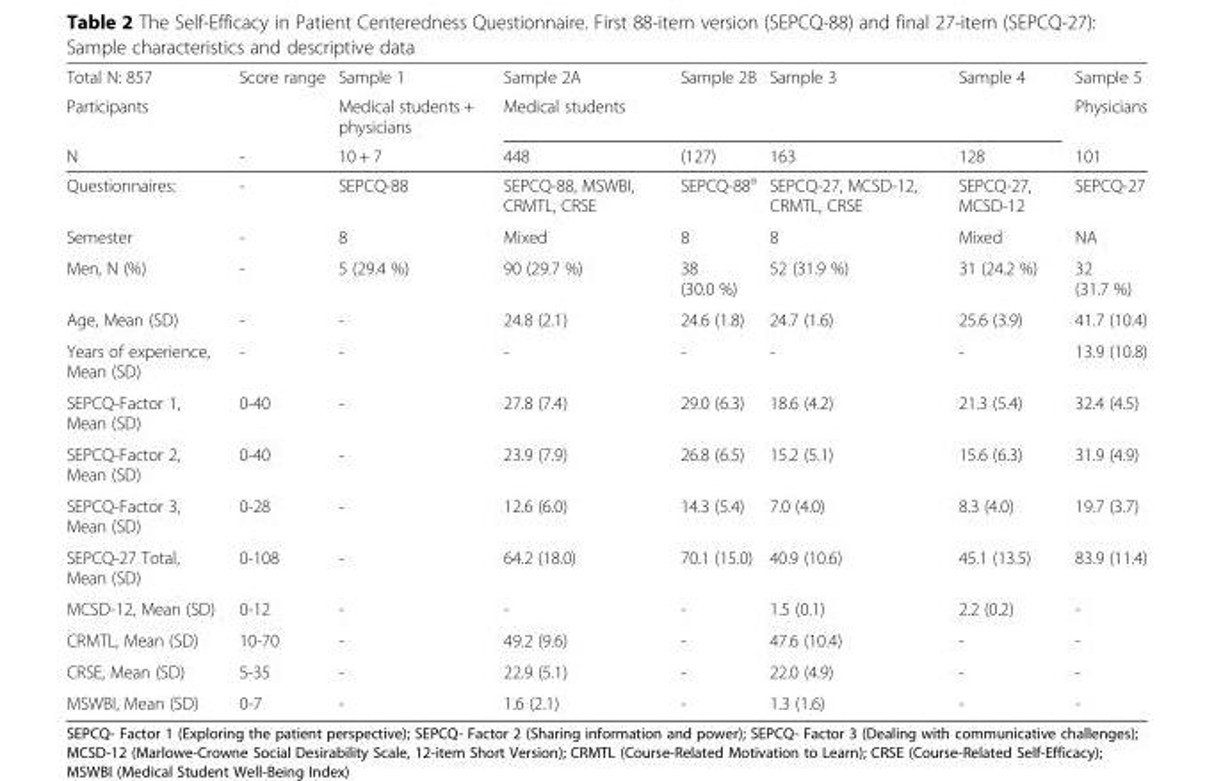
<table><thead><tr><td rowspan="3">Total N: 857 Participants N</td><td rowspan="3">Score range -</td><td rowspan="3">Sample 1 Medical students + physicians 10 + 7</td><td>Sample 2A</td><td>Sample 2B</td><td>Sample 3</td><td>Sample 4</td><td rowspan="3">Sample 5 Physicians 101</td></tr><tr><td colspan="4">Medical students</td></tr><tr><td>448</td><td>(127)</td><td>163</td><td>128</td></tr></thead><tbody><tr><td>Questionnaires:</td><td>-</td><td>SEPCQ-88</td><td>SEPCQ-88, MSWBI, CRMTL, CRSE</td><td>SEPCQ-88<sup>a</sup></td><td>SEPCQ-27, MCSD-12, CRMTL, CRSE</td><td>SEPCQ-27, MCSD-12</td><td>SEPCQ-27</td></tr><tr><td>Semester</td><td>-</td><td>8</td><td>Mixed</td><td>8</td><td>8</td><td>Mixed</td><td>NA</td></tr><tr><td>Men, N (%)</td><td>-</td><td>5 (29.4 %)</td><td>90 (29.7 %)</td><td>38 (30.0 %)</td><td>52 (31.9 %)</td><td>31 (24.2 %)</td><td>32 (31.7 %)</td></tr><tr><td>Age, Mean (SD)</td><td>-</td><td>-</td><td>24.8 (2.1)</td><td>24.6 (1.8)</td><td>24.7 (1.6)</td><td>25.6 (3.9)</td><td>41.7 (10.4)</td></tr><tr><td>Years of experience, Mean (SD)</td><td>-</td><td>-</td><td>-</td><td>-</td><td>-</td><td>-</td><td>13.9 (10.8)</td></tr><tr><td>SEPCQ-Factor 1, Mean (SD)</td><td>0-40</td><td>-</td><td>27.8 (7.4)</td><td>29.0 (6.3)</td><td>18.6 (4.2)</td><td>21.3 (5.4)</td><td>32.4 (4.5)</td></tr><tr><td>SEPCQ-Factor 2, Mean (SD)</td><td>0-40</td><td>-</td><td>23.9 (7.9)</td><td>26.8 (6.5)</td><td>15.2 (5.1)</td><td>15.6 (6.3)</td><td>31.9 (4.9)</td></tr><tr><td>SEPCQ-Factor 3, Mean (SD)</td><td>0-28</td><td>-</td><td>12.6 (6.0)</td><td>14.3 (5.4)</td><td>7.0 (4.0)</td><td>8.3 (4.0)</td><td>19.7 (3.7)</td></tr><tr><td>SEPCQ-27 Total, Mean (SD)</td><td>0-108</td><td>-</td><td>64.2 (18.0)</td><td>70.1 (15.0)</td><td>40.9 (10.6)</td><td>45.1 (13.5)</td><td>83.9 (11.4)</td></tr><tr><td>MCSD-12, Mean (SD)</td><td>0-12</td><td>-</td><td>-</td><td>-</td><td>1.5 (0.1)</td><td>2.2 (0.2)</td><td>-</td></tr><tr><td>CRMTL, Mean (SD)</td><td>10-70</td><td>-</td><td>49.2 (9.6)</td><td>-</td><td>47.6 (10.4)</td><td>-</td><td>-</td></tr><tr><td>CRSE, Mean (SD)</td><td>5-35</td><td>-</td><td>22.9 (5.1)</td><td>-</td><td>22.0 (4.9)</td><td>-</td><td>-</td></tr><tr><td>MSWBI, Mean (SD)</td><td>0-7</td><td>-</td><td>1.6 (2.1)</td><td>-</td><td>1.3 (1.6)</td><td>-</td><td>-</td></tr></tbody></table>